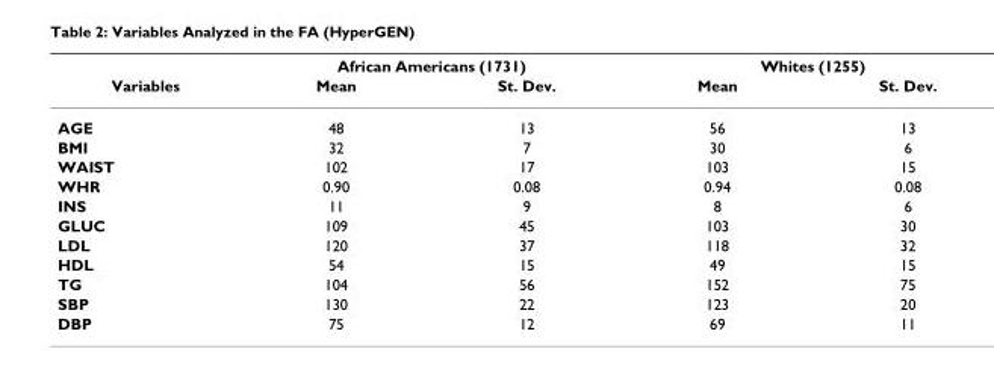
<table><thead><tr><td rowspan="2">Variables</td><td colspan="2">African Americans (1731)</td><td colspan="2">Whites (1255)</td></tr><tr><td>Mean</td><td>St. Dev.</td><td>Mean</td><td>St. Dev.</td></tr></thead><tbody><tr><td>AGE</td><td>48</td><td>13</td><td>56</td><td>13</td></tr><tr><td>BMI</td><td>32</td><td>7</td><td>30</td><td>6</td></tr><tr><td>WAIST</td><td>102</td><td>17</td><td>103</td><td>15</td></tr><tr><td>WHR</td><td>0.90</td><td>0.08</td><td>0.94</td><td>0.08</td></tr><tr><td>INS</td><td>11</td><td>9</td><td>8</td><td>6</td></tr><tr><td>GLUC</td><td>109</td><td>45</td><td>103</td><td>30</td></tr><tr><td>LDL</td><td>120</td><td>37</td><td>118</td><td>32</td></tr><tr><td>HDL</td><td>54</td><td>15</td><td>49</td><td>15</td></tr><tr><td>TG</td><td>104</td><td>56</td><td>152</td><td>75</td></tr><tr><td>SBP</td><td>130</td><td>22</td><td>123</td><td>20</td></tr><tr><td>DBP</td><td>75</td><td>12</td><td>69</td><td>11</td></tr></tbody></table>